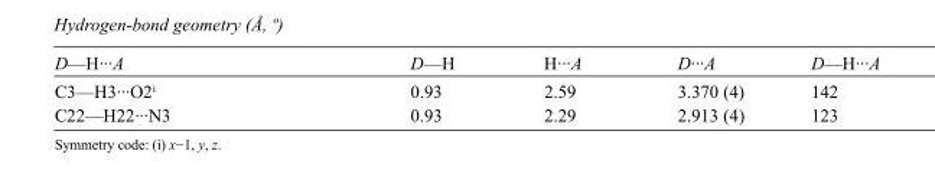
<table><tbody><tr><td>D—H···A</td><td>D—H</td><td>H···A</td><td>D···A</td><td>D—H···A</td></tr><tr><td>C3—H3···O2<sup>i</sup></td><td>0.93</td><td>2.59</td><td>3.370 (4)</td><td>142</td></tr><tr><td>C22—H22···N3</td><td>0.93</td><td>2.29</td><td>2.913 (4)</td><td>123</td></tr></tbody></table>